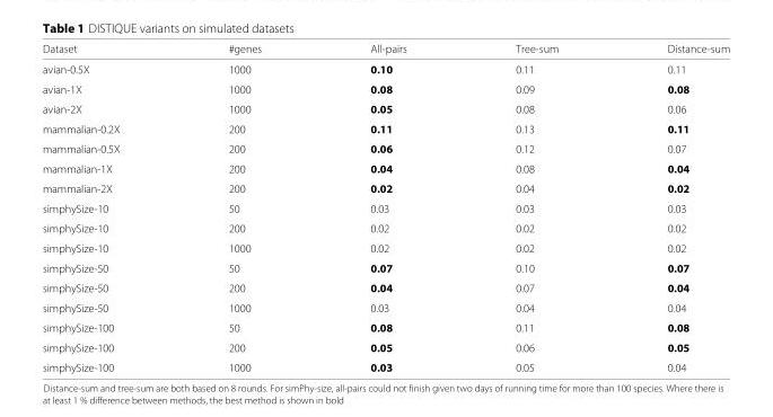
<table><thead><tr><td>Dataset</td><td>#genes</td><td>All-pairs</td><td>Tree-sum</td><td>Distance-sum</td></tr></thead><tbody><tr><td>avian-0.5X</td><td>1000</td><td>0.10</td><td>0.11</td><td>0.11</td></tr><tr><td>avian-1X</td><td>1000</td><td>0.08</td><td>0.09</td><td>0.08</td></tr><tr><td>avian-2X</td><td>1000</td><td>0.05</td><td>0.08</td><td>0.06</td></tr><tr><td>mammalian-0.2X</td><td>200</td><td>0.11</td><td>0.13</td><td>0.11</td></tr><tr><td>mammalian-0.5X</td><td>200</td><td>0.06</td><td>0.12</td><td>0.07</td></tr><tr><td>mammalian-1X</td><td>200</td><td>0.04</td><td>0.08</td><td>0.04</td></tr><tr><td>mammalian-2X</td><td>200</td><td>0.02</td><td>0.04</td><td>0.02</td></tr><tr><td>simphySize-10</td><td>50</td><td>0.03</td><td>0.03</td><td>0.03</td></tr><tr><td>simphySize-10</td><td>200</td><td>0.02</td><td>0.02</td><td>0.02</td></tr><tr><td>simphySize-10</td><td>1000</td><td>0.02</td><td>0.02</td><td>0.02</td></tr><tr><td>simphySize-50</td><td>50</td><td>0.07</td><td>0.10</td><td>0.07</td></tr><tr><td>simphySize-50</td><td>200</td><td>0.04</td><td>0.07</td><td>0.04</td></tr><tr><td>simphySize-50</td><td>1000</td><td>0.03</td><td>0.04</td><td>0.04</td></tr><tr><td>simphySize-100</td><td>50</td><td>0.08</td><td>0.11</td><td>0.08</td></tr><tr><td>simphySize-100</td><td>200</td><td>0.05</td><td>0.06</td><td>0.05</td></tr><tr><td>simphySize-100</td><td>1000</td><td>0.03</td><td>0.05</td><td>0.04</td></tr></tbody></table>